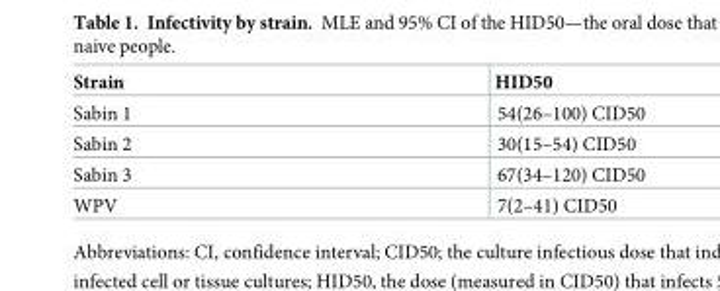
<table><thead><tr><td>Strain</td><td>HID50</td></tr></thead><tbody><tr><td>Sabin 1</td><td>54(26–100) CID50</td></tr><tr><td>Sabin 2</td><td>30(15–54) CID50</td></tr><tr><td>Sabin 3</td><td>67(34–120) CID50</td></tr><tr><td>WPV</td><td>7(2–41) CID50</td></tr></tbody></table>